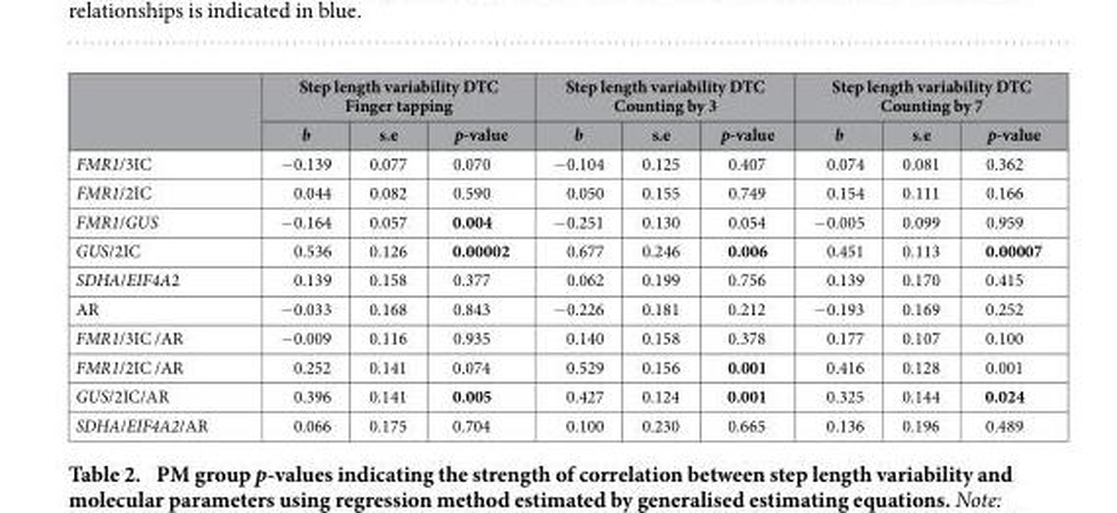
<table><thead><tr><td rowspan="2"></td><td colspan="3">Step length variability DTC Finger tapping</td><td colspan="3">Step length variability DTC Counting by 3</td><td colspan="3">Step length variability DTC Counting by 7</td></tr><tr><td>b</td><td>s.e</td><td>p-value</td><td>b</td><td>s.e</td><td>p-value</td><td>b</td><td>s.e</td><td>p-value</td></tr></thead><tbody><tr><td>FMR1/3IC</td><td>− 0.139</td><td>0.077</td><td>0.070</td><td>− 0.104</td><td>0.125</td><td>0.407</td><td>0.074</td><td>0.081</td><td>0.362</td></tr><tr><td>FMR1/2IC</td><td>0.044</td><td>0.082</td><td>0.590</td><td>0.050</td><td>0.155</td><td>0.749</td><td>0.154</td><td>0.111</td><td>0.166</td></tr><tr><td>FMR1/GUS</td><td>− 0.164</td><td>0.057</td><td>0.004</td><td>− 0.251</td><td>0.130</td><td>0.054</td><td>− 0.005</td><td>0.099</td><td>0.959</td></tr><tr><td>GUS/2IC</td><td>0.536</td><td>0.126</td><td>0.00002</td><td>0.677</td><td>0.246</td><td>0.006</td><td>0.451</td><td>0.113</td><td>0.00007</td></tr><tr><td>SDHA/EIF4A2</td><td>0.139</td><td>0.158</td><td>0.377</td><td>0.062</td><td>0.199</td><td>0.756</td><td>0.139</td><td>0.170</td><td>0.415</td></tr><tr><td>AR</td><td>− 0.033</td><td>0.168</td><td>0.843</td><td>− 0.226</td><td>0.181</td><td>0.212</td><td>− 0.193</td><td>0.169</td><td>0.252</td></tr><tr><td>FMR1/3IC /AR</td><td>− 0.009</td><td>0.116</td><td>0.935</td><td>0.140</td><td>0.158</td><td>0.378</td><td>0.177</td><td>0.107</td><td>0.100</td></tr><tr><td>FMR1/2IC /AR</td><td>0.252</td><td>0.141</td><td>0.074</td><td>0.529</td><td>0.156</td><td>0.001</td><td>0.416</td><td>0.128</td><td>0.001</td></tr><tr><td>GUS/2IC/AR</td><td>0.396</td><td>0.141</td><td>0.005</td><td>0.427</td><td>0.124</td><td>0.001</td><td>0.325</td><td>0.144</td><td>0.024</td></tr><tr><td>SDHA/EIF4A2/AR</td><td>0.066</td><td>0.175</td><td>0.704</td><td>0.100</td><td>0.230</td><td>0.665</td><td>0.136</td><td>0.196</td><td>0.489</td></tr></tbody></table>